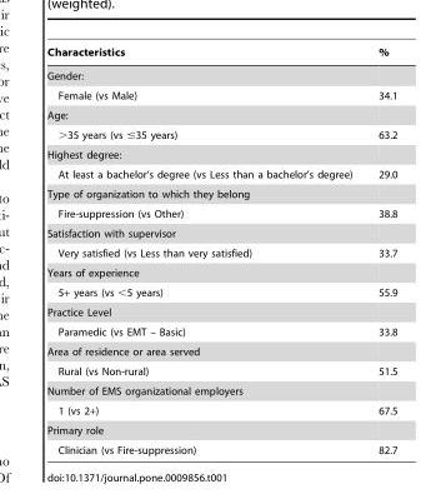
<table><thead><tr><td>Characteristics</td><td>%</td></tr></thead><tbody><tr><td colspan="2">Gender:</td></tr><tr><td>Female (vs Male)</td><td>34.1</td></tr><tr><td colspan="2">Age:</td></tr><tr><td>&gt;35 years (vs ≤35 years)</td><td>63.2</td></tr><tr><td colspan="2">Highest degree:</td></tr><tr><td>At least a bachelor’s degree (vs Less than a bachelor’s degree)</td><td>29.0</td></tr><tr><td colspan="2">Type of organization to which they belong</td></tr><tr><td>Fire-suppression (vs Other)</td><td>38.8</td></tr><tr><td colspan="2">Satisfaction with supervisor</td></tr><tr><td>Very satisfied (vs Less than very satisfied)</td><td>33.7</td></tr><tr><td colspan="2">Years of experience</td></tr><tr><td>5+ years (vs &lt;5 years)</td><td>55.9</td></tr><tr><td colspan="2">Practice Level</td></tr><tr><td>Paramedic (vs EMT – Basic)</td><td>33.8</td></tr><tr><td colspan="2">Area of residence or area served</td></tr><tr><td>Rural (vs Non-rural)</td><td>51.5</td></tr><tr><td colspan="2">Number of EMS organizational employers</td></tr><tr><td>1 (vs 2+)</td><td>67.5</td></tr><tr><td colspan="2">Primary role</td></tr><tr><td>Clinician (vs Fire-suppression)</td><td>82.7</td></tr></tbody></table>